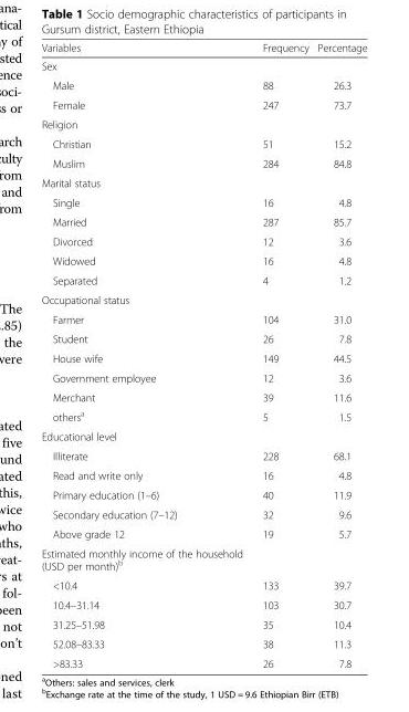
<table><thead><tr><td>Variables</td><td>Frequency</td><td>Percentage</td></tr></thead><tbody><tr><td colspan="3">Sex</td></tr><tr><td>Male</td><td>88</td><td>26.3</td></tr><tr><td>Female</td><td>247</td><td>73.7</td></tr><tr><td colspan="3">Religion</td></tr><tr><td>Christian</td><td>51</td><td>15.2</td></tr><tr><td>Muslim</td><td>284</td><td>84.8</td></tr><tr><td colspan="3">Marital status</td></tr><tr><td>Single</td><td>16</td><td>4.8</td></tr><tr><td>Married</td><td>287</td><td>85.7</td></tr><tr><td>Divorced</td><td>12</td><td>3.6</td></tr><tr><td>Widowed</td><td>16</td><td>4.8</td></tr><tr><td>Separated</td><td>4</td><td>1.2</td></tr><tr><td colspan="3">Occupational status</td></tr><tr><td>Farmer</td><td>104</td><td>31.0</td></tr><tr><td>Student</td><td>26</td><td>7.8</td></tr><tr><td>House wife</td><td>149</td><td>44.5</td></tr><tr><td>Government employee</td><td>12</td><td>3.6</td></tr><tr><td>Merchant</td><td>39</td><td>11.6</td></tr><tr><td>others<sup>a</sup></td><td>5</td><td>1.5</td></tr><tr><td colspan="3">Educational level</td></tr><tr><td>Illiterate</td><td>228</td><td>68.1</td></tr><tr><td>Read and write only</td><td>16</td><td>4.8</td></tr><tr><td>Primary education (1–6)</td><td>40</td><td>11.9</td></tr><tr><td>Secondary education (7–12)</td><td>32</td><td>9.6</td></tr><tr><td>Above grade 12</td><td>19</td><td>5.7</td></tr><tr><td colspan="3">Estimated monthly income of the household (USD per month)<sup>b</sup></td></tr><tr><td>&lt;10.4</td><td>133</td><td>39.7</td></tr><tr><td>10.4–31.14</td><td>103</td><td>30.7</td></tr><tr><td>31.25–51.98</td><td>35</td><td>10.4</td></tr><tr><td>52.08–83.33</td><td>38</td><td>11.3</td></tr><tr><td>&gt;83.33</td><td>26</td><td>7.8</td></tr></tbody></table>